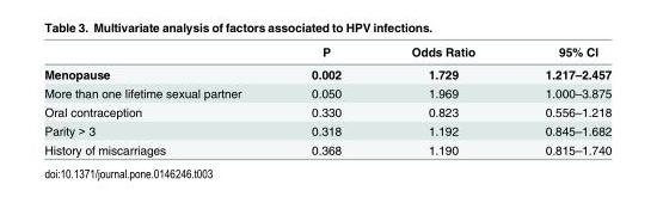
<table><thead><tr><td></td><td>P</td><td>Odds Ratio</td><td>95% CI</td></tr></thead><tbody><tr><td>Menopause</td><td>0.002</td><td>1.729</td><td>1.217–2.457</td></tr><tr><td>More than one lifetime sexual partner</td><td>0.050</td><td>1.969</td><td>1.000–3.875</td></tr><tr><td>Oral contraception</td><td>0.330</td><td>0.823</td><td>0.556–1.218</td></tr><tr><td>Parity &gt; 3</td><td>0.318</td><td>1.192</td><td>0.845–1.682</td></tr><tr><td>History of miscarriages</td><td>0.368</td><td>1.190</td><td>0.815–1.740</td></tr></tbody></table>